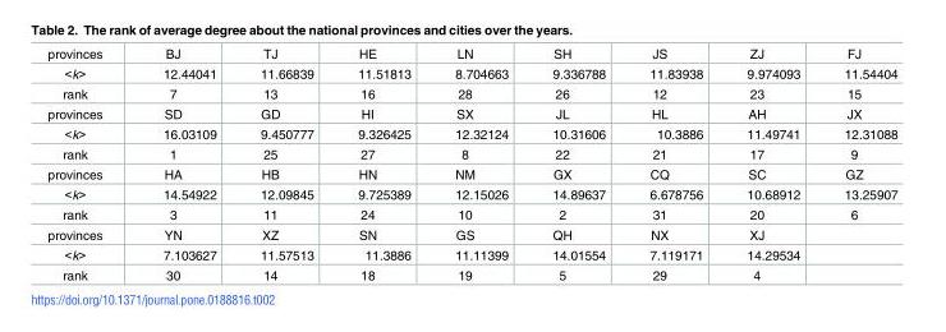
<table><tbody><tr><td>provinces</td><td>BJ</td><td>TJ</td><td>HE</td><td>LN</td><td>SH</td><td>JS</td><td>ZJ</td><td>FJ</td></tr><tr><td>&lt;k&gt;</td><td>12.44041</td><td>11.66839</td><td>11.51813</td><td>8.704663</td><td>9.336788</td><td>11.83938</td><td>9.974093</td><td>11.54404</td></tr><tr><td>rank</td><td>7</td><td>13</td><td>16</td><td>28</td><td>26</td><td>12</td><td>23</td><td>15</td></tr><tr><td>provinces</td><td>SD</td><td>GD</td><td>HI</td><td>SX</td><td>JL</td><td>HL</td><td>AH</td><td>JX</td></tr><tr><td>&lt;k&gt;</td><td>16.03109</td><td>9.450777</td><td>9.326425</td><td>12.32124</td><td>10.31606</td><td>10.3886</td><td>11.49741</td><td>12.31088</td></tr><tr><td>rank</td><td>1</td><td>25</td><td>27</td><td>8</td><td>22</td><td>21</td><td>17</td><td>9</td></tr><tr><td>provinces</td><td>HA</td><td>HB</td><td>HN</td><td>NM</td><td>GX</td><td>CQ</td><td>SC</td><td>GZ</td></tr><tr><td>&lt;k&gt;</td><td>14.54922</td><td>12.09845</td><td>9.725389</td><td>12.15026</td><td>14.89637</td><td>6.678756</td><td>10.68912</td><td>13.25907</td></tr><tr><td>rank</td><td>3</td><td>11</td><td>24</td><td>10</td><td>2</td><td>31</td><td>20</td><td>6</td></tr><tr><td>provinces</td><td>YN</td><td>XZ</td><td>SN</td><td>GS</td><td>QH</td><td>NX</td><td>XJ</td><td></td></tr><tr><td>&lt;k&gt;</td><td>7.103627</td><td>11.57513</td><td>11.3886</td><td>11.11399</td><td>14.01554</td><td>7.119171</td><td>14.29534</td><td></td></tr><tr><td>rank</td><td>30</td><td>14</td><td>18</td><td>19</td><td>5</td><td>29</td><td>4</td><td></td></tr></tbody></table>